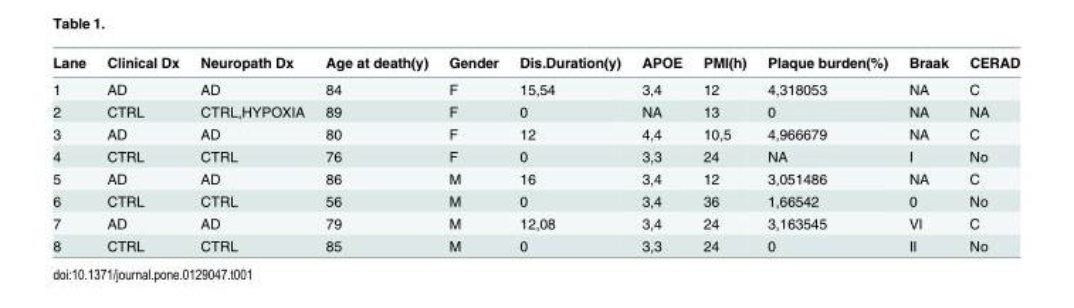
<table><thead><tr><td>Lane</td><td>Clinical Dx</td><td>Neuropath Dx</td><td>Age at death(y)</td><td>Gender</td><td>Dis.Duration(y)</td><td>APOE</td><td>PMI(h)</td><td>Plaque burden(%)</td><td>Braak</td><td>CERAD</td></tr></thead><tbody><tr><td>1</td><td>AD</td><td>AD</td><td>84</td><td>F</td><td>15,54</td><td>3,4</td><td>12</td><td>4,318053</td><td>NA</td><td>C</td></tr><tr><td>2</td><td>CTRL</td><td>CTRL,HYPOXIA</td><td>89</td><td>F</td><td>0</td><td>NA</td><td>13</td><td>0</td><td>NA</td><td>NA</td></tr><tr><td>3</td><td>AD</td><td>AD</td><td>80</td><td>F</td><td>12</td><td>4,4</td><td>10,5</td><td>4,966679</td><td>NA</td><td>C</td></tr><tr><td>4</td><td>CTRL</td><td>CTRL</td><td>76</td><td>F</td><td>0</td><td>3,3</td><td>24</td><td>NA</td><td>I</td><td>No</td></tr><tr><td>5</td><td>AD</td><td>AD</td><td>86</td><td>M</td><td>16</td><td>3,4</td><td>12</td><td>3,051486</td><td>NA</td><td>C</td></tr><tr><td>6</td><td>CTRL</td><td>CTRL</td><td>56</td><td>M</td><td>0</td><td>3,4</td><td>36</td><td>1,66542</td><td>0</td><td>No</td></tr><tr><td>7</td><td>AD</td><td>AD</td><td>79</td><td>M</td><td>12,08</td><td>3,4</td><td>24</td><td>3,163545</td><td>VI</td><td>C</td></tr><tr><td>8</td><td>CTRL</td><td>CTRL</td><td>85</td><td>M</td><td>0</td><td>3,3</td><td>24</td><td>0</td><td>II</td><td>No</td></tr></tbody></table>